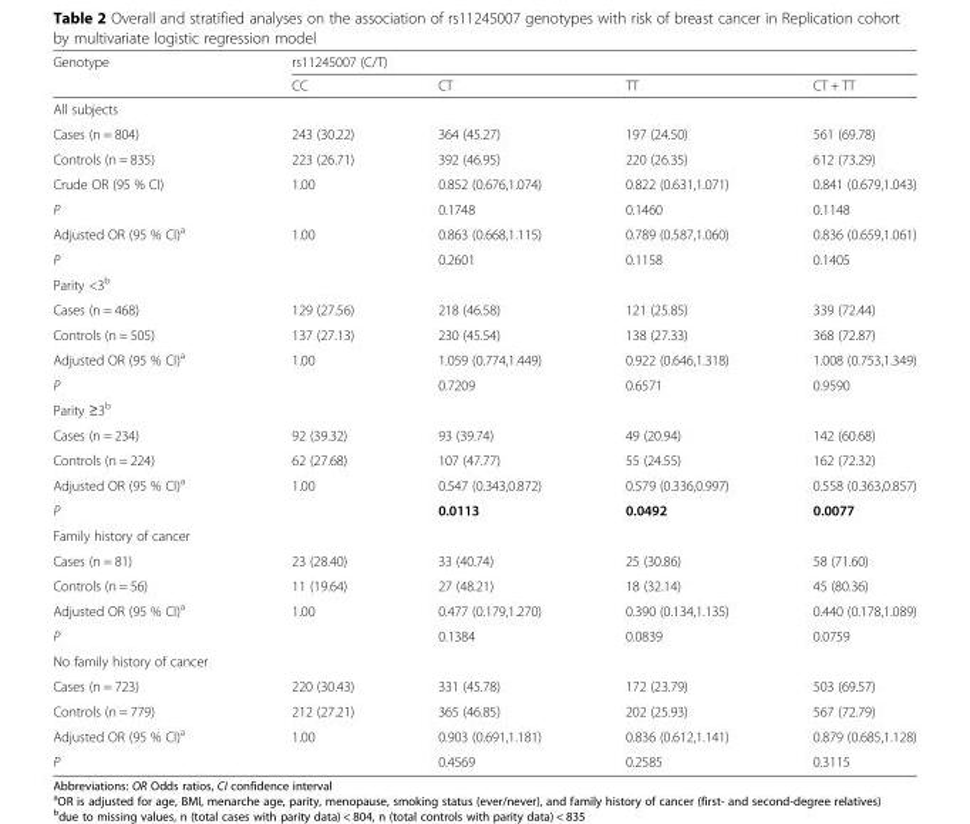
<table><thead><tr><td rowspan="2">Genotype</td><td colspan="4">rs11245007 (C/T)</td></tr><tr><td>CC</td><td>CT</td><td>TT</td><td>CT + TT</td></tr></thead><tbody><tr><td colspan="5">All subjects</td></tr><tr><td>Cases (n = 804)</td><td>243 (30.22)</td><td>364 (45.27)</td><td>197 (24.50)</td><td>561 (69.78)</td></tr><tr><td>Controls (n = 835)</td><td>223 (26.71)</td><td>392 (46.95)</td><td>220 (26.35)</td><td>612 (73.29)</td></tr><tr><td>Crude OR (95 % CI)</td><td>1.00</td><td>0.852 (0.676,1.074)</td><td>0.822 (0.631,1.071)</td><td>0.841 (0.679,1.043)</td></tr><tr><td>P</td><td></td><td>0.1748</td><td>0.1460</td><td>0.1148</td></tr><tr><td>Adjusted OR (95 % CI)<sup>a</sup></td><td>1.00</td><td>0.863 (0.668,1.115)</td><td>0.789 (0.587,1.060)</td><td>0.836 (0.659,1.061)</td></tr><tr><td>P</td><td></td><td>0.2601</td><td>0.1158</td><td>0.1405</td></tr><tr><td colspan="5">Parity &lt;3<sup>b</sup></td></tr><tr><td>Cases (n = 468)</td><td>129 (27.56)</td><td>218 (46.58)</td><td>121 (25.85)</td><td>339 (72.44)</td></tr><tr><td>Controls (n = 505)</td><td>137 (27.13)</td><td>230 (45.54)</td><td>138 (27.33)</td><td>368 (72.87)</td></tr><tr><td>Adjusted OR (95 % CI)<sup>a</sup></td><td>1.00</td><td>1.059 (0.774,1.449)</td><td>0.922 (0.646,1.318)</td><td>1.008 (0.753,1.349)</td></tr><tr><td>P</td><td></td><td>0.7209</td><td>0.6571</td><td>0.9590</td></tr><tr><td colspan="5">Parity ≥3<sup>b</sup></td></tr><tr><td>Cases (n = 234)</td><td>92 (39.32)</td><td>93 (39.74)</td><td>49 (20.94)</td><td>142 (60.68)</td></tr><tr><td>Controls (n = 224)</td><td>62 (27.68)</td><td>107 (47.77)</td><td>55 (24.55)</td><td>162 (72.32)</td></tr><tr><td>Adjusted OR (95 % CI)<sup>a</sup></td><td>1.00</td><td>0.547 (0.343,0.872)</td><td>0.579 (0.336,0.997)</td><td>0.558 (0.363,0.857)</td></tr><tr><td>P</td><td></td><td>0.0113</td><td>0.0492</td><td>0.0077</td></tr><tr><td colspan="5">Family history of cancer</td></tr><tr><td>Cases (n = 81)</td><td>23 (28.40)</td><td>33 (40.74)</td><td>25 (30.86)</td><td>58 (71.60)</td></tr><tr><td>Controls (n = 56)</td><td>11 (19.64)</td><td>27 (48.21)</td><td>18 (32.14)</td><td>45 (80.36)</td></tr><tr><td>Adjusted OR (95 % CI)<sup>a</sup></td><td>1.00</td><td>0.477 (0.179,1.270)</td><td>0.390 (0.134,1.135)</td><td>0.440 (0.178,1.089)</td></tr><tr><td>P</td><td></td><td>0.1384</td><td>0.0839</td><td>0.0759</td></tr><tr><td colspan="5">No family history of cancer</td></tr><tr><td>Cases (n = 723)</td><td>220 (30.43)</td><td>331 (45.78)</td><td>172 (23.79)</td><td>503 (69.57)</td></tr><tr><td>Controls (n = 779)</td><td>212 (27.21)</td><td>365 (46.85)</td><td>202 (25.93)</td><td>567 (72.79)</td></tr><tr><td>Adjusted OR (95 % CI)<sup>a</sup></td><td>1.00</td><td>0.903 (0.691,1.181)</td><td>0.836 (0.612,1.141)</td><td>0.879 (0.685,1.128)</td></tr><tr><td>P</td><td></td><td>0.4569</td><td>0.2585</td><td>0.3115</td></tr></tbody></table>